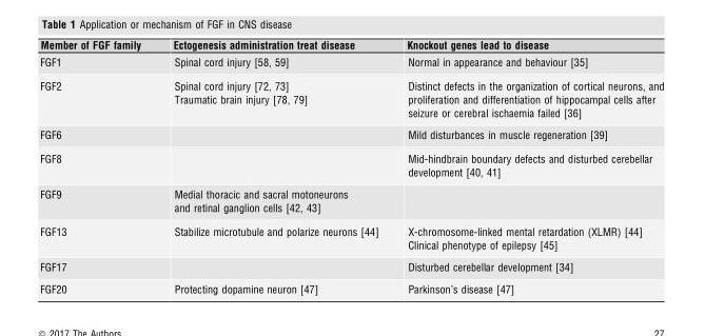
<table><thead><tr><td>Member of FGF family</td><td>Ectogenesis administration treat disease</td><td>Knockout genes lead to disease</td></tr></thead><tbody><tr><td>FGF1</td><td>Spinal cord injury [58, 59]</td><td>Normal in appearance and behaviour [35]</td></tr><tr><td>FGF2</td><td>Spinal cord injury [72, 73] Traumatic brain injury [78, 79]</td><td>Distinct defects in the organization of cortical neurons, and proliferation and differentiation of hippocampal cells after seizure or cerebral ischaemia failed [36]</td></tr><tr><td>FGF6</td><td></td><td>Mild disturbances in muscle regeneration [39]</td></tr><tr><td>FGF8</td><td></td><td>Mid-hindbrain boundary defects and disturbed cerebellar development [40, 41]</td></tr><tr><td>FGF9</td><td>Medial thoracic and sacral motoneurons and retinal ganglion cells [42, 43]</td><td></td></tr><tr><td>FGF13</td><td>Stabilize microtubule and polarize neurons [44]</td><td>X-chromosome-linked mental retardation (XLMR) [44] Clinical phenotype of epilepsy [45]</td></tr><tr><td>FGF17</td><td></td><td>Disturbed cerebellar development [34]</td></tr><tr><td>FGF20</td><td>Protecting dopamine neuron [47]</td><td>Parkinson’s disease [47]</td></tr></tbody></table>